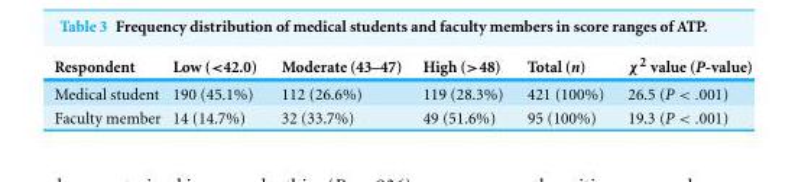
<table><thead><tr><td>Respondent</td><td>Low (&lt;42.0)</td><td>Moderate (43–47)</td><td>High (&gt;48)</td><td>Total (n)</td><td>χ<sup>2</sup> value (P-value)</td></tr></thead><tbody><tr><td>Medical student</td><td>190 (45.1%)</td><td>112 (26.6%)</td><td>119 (28.3%)</td><td>421 (100%)</td><td>26.5 (P &lt; .001)</td></tr><tr><td>Faculty member</td><td>14 (14.7%)</td><td>32 (33.7%)</td><td>49 (51.6%)</td><td>95 (100%)</td><td>19.3 (P &lt; .001)</td></tr></tbody></table>